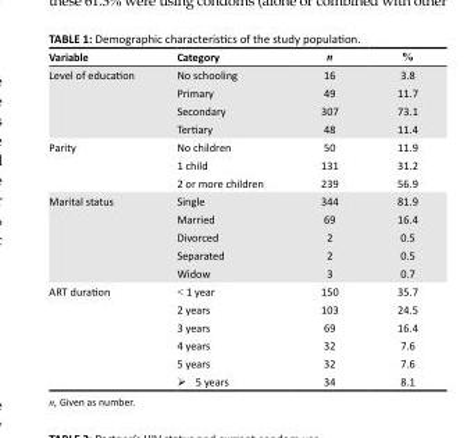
<table><thead><tr><td>Variable</td><td>Category</td><td>n</td><td>%</td></tr></thead><tbody><tr><td rowspan="4">Level of education</td><td>No schooling</td><td>16</td><td>3.8</td></tr><tr><td>Primary</td><td>49</td><td>11.7</td></tr><tr><td>Secondary</td><td>307</td><td>73.1</td></tr><tr><td>Tertiary</td><td>48</td><td>11.4</td></tr><tr><td rowspan="3">Parity</td><td>No children</td><td>50</td><td>11.9</td></tr><tr><td>1 child</td><td>131</td><td>31.2</td></tr><tr><td>2 or more children</td><td>239</td><td>56.9</td></tr><tr><td rowspan="5">Marital status</td><td>Single</td><td>344</td><td>81.9</td></tr><tr><td>Married</td><td>69</td><td>16.4</td></tr><tr><td>Divorced</td><td>2</td><td>0.5</td></tr><tr><td>Separated</td><td>2</td><td>0.5</td></tr><tr><td>Widow</td><td>3</td><td>0.7</td></tr><tr><td rowspan="6">ART duration</td><td>&lt; 1 year</td><td>150</td><td>35.7</td></tr><tr><td>2 years</td><td>103</td><td>24.5</td></tr><tr><td>3 years</td><td>69</td><td>16.4</td></tr><tr><td>4 years</td><td>32</td><td>7.6</td></tr><tr><td>5 years</td><td>32</td><td>7.6</td></tr><tr><td>➣ 5 years</td><td>34</td><td>8.1</td></tr></tbody></table>